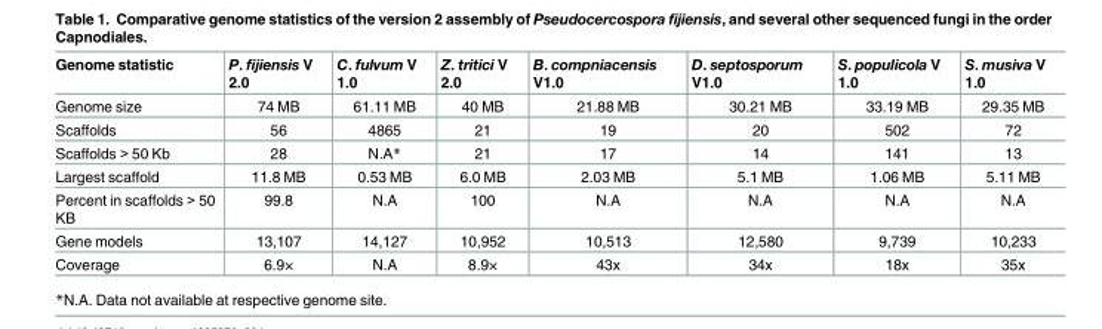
<table><thead><tr><td>Genome statistic</td><td>P. fijiensis V 2.0</td><td>C. fulvum V 1.0</td><td>Z. tritici V 2.0</td><td>B. compniacensis V1.0</td><td>D. septosporum V1.0</td><td>S. populicola V 1.0</td><td>S. musiva V 1.0</td></tr></thead><tbody><tr><td>Genome size</td><td>74 MB</td><td>61.11 MB</td><td>40 MB</td><td>21.88 MB</td><td>30.21 MB</td><td>33.19 MB</td><td>29.35 MB</td></tr><tr><td>Scaffolds</td><td>56</td><td>4865</td><td>21</td><td>19</td><td>20</td><td>502</td><td>72</td></tr><tr><td>Scaffolds &gt; 50 Kb</td><td>28</td><td>N.A*</td><td>21</td><td>17</td><td>14</td><td>141</td><td>13</td></tr><tr><td>Largest scaffold</td><td>11.8 MB</td><td>0.53 MB</td><td>6.0 MB</td><td>2.03 MB</td><td>5.1 MB</td><td>1.06 MB</td><td>5.11 MB</td></tr><tr><td>Percent in scaffolds &gt; 50 KB</td><td>99.8</td><td>N.A</td><td>100</td><td>N.A</td><td>N.A</td><td>N.A</td><td>N.A</td></tr><tr><td>Gene models</td><td>13,107</td><td>14,127</td><td>10,952</td><td>10,513</td><td>12,580</td><td>9,739</td><td>10,233</td></tr><tr><td>Coverage</td><td>6.9×</td><td>N.A</td><td>8.9×</td><td>43x</td><td>34x</td><td>18x</td><td>35x</td></tr></tbody></table>